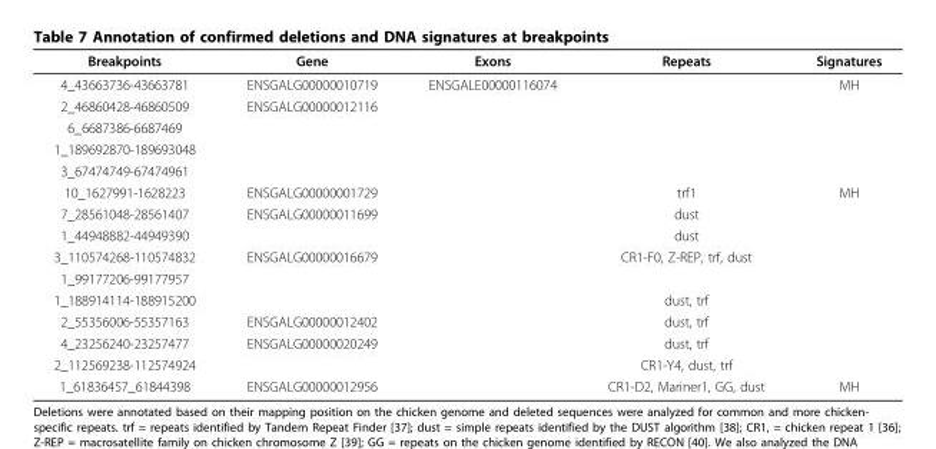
<table><thead><tr><td>Breakpoints</td><td>Gene</td><td>Exons</td><td>Repeats</td><td>Signatures</td></tr></thead><tbody><tr><td>4_43663736-43663781</td><td>ENSGALG00000010719</td><td>ENSGALE00000116074</td><td></td><td>MH</td></tr><tr><td>2_46860428-46860509</td><td>ENSGALG00000012116</td><td></td><td></td><td></td></tr><tr><td colspan="5">6_6687386-6687469</td></tr><tr><td colspan="5">1_189692870-189693048</td></tr><tr><td colspan="5">3_67474749-67474961</td></tr><tr><td>10_1627991-1628223</td><td>ENSGALG00000001729</td><td></td><td>trf1</td><td>MH</td></tr><tr><td>7_28561048-28561407</td><td>ENSGALG00000011699</td><td></td><td>dust</td><td></td></tr><tr><td>1_44948882-44949390</td><td></td><td></td><td>dust</td><td></td></tr><tr><td>3_110574268-110574832</td><td>ENSGALG00000016679</td><td></td><td>CR1-F0, Z-REP, trf, dust</td><td></td></tr><tr><td colspan="5">1_99177206-99177957</td></tr><tr><td>1_188914114-188915200</td><td></td><td></td><td>dust, trf</td><td></td></tr><tr><td>2_55356006-55357163</td><td>ENSGALG00000012402</td><td></td><td>dust, trf</td><td></td></tr><tr><td>4_23256240-23257477</td><td>ENSGALG00000020249</td><td></td><td>dust, trf</td><td></td></tr><tr><td>2_112569238-112574924</td><td></td><td></td><td>CR1-Y4, dust, trf</td><td></td></tr><tr><td>1_61836457_61844398</td><td>ENSGALG00000012956</td><td></td><td>CR1-D2, Mariner1, GG, dust</td><td>MH</td></tr></tbody></table>